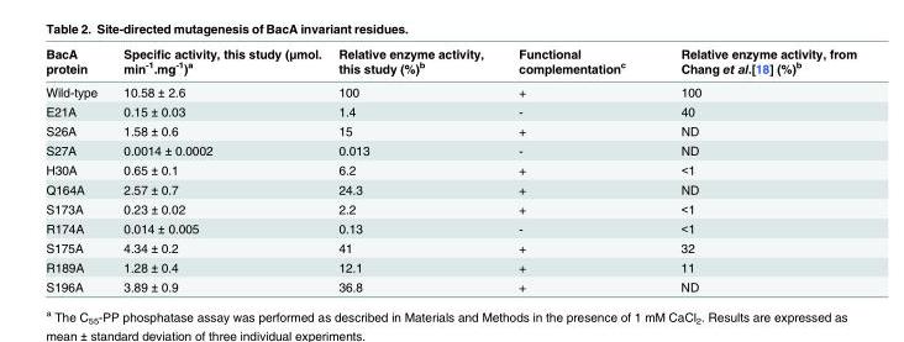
<table><thead><tr><td>BacA protein</td><td>Specific activity, this study (μmol. min<sup>-1</sup>.mg<sup>-1</sup>)<sup>a</sup></td><td>Relative enzyme activity, this study (%)<sup>b</sup></td><td>Functional complementation<sup>c</sup></td><td>Relative enzyme activity, from Chang et al.[18] (%)<sup>b</sup></td></tr></thead><tbody><tr><td>Wild-type</td><td>10.58 ± 2.6</td><td>100</td><td>+</td><td>100</td></tr><tr><td>E21A</td><td>0.15 ± 0.03</td><td>1.4</td><td>-</td><td>40</td></tr><tr><td>S26A</td><td>1.58 ± 0.6</td><td>15</td><td>+</td><td>ND</td></tr><tr><td>S27A</td><td>0.0014 ± 0.0002</td><td>0.013</td><td>-</td><td>ND</td></tr><tr><td>H30A</td><td>0.65 ± 0.1</td><td>6.2</td><td>+</td><td>&lt;1</td></tr><tr><td>Q164A</td><td>2.57 ± 0.7</td><td>24.3</td><td>+</td><td>ND</td></tr><tr><td>S173A</td><td>0.23 ± 0.02</td><td>2.2</td><td>+</td><td>&lt;1</td></tr><tr><td>R174A</td><td>0.014 ± 0.005</td><td>0.13</td><td>-</td><td>&lt;1</td></tr><tr><td>S175A</td><td>4.34 ± 0.2</td><td>41</td><td>+</td><td>32</td></tr><tr><td>R189A</td><td>1.28 ± 0.4</td><td>12.1</td><td>+</td><td>11</td></tr><tr><td>S196A</td><td>3.89 ± 0.9</td><td>36.8</td><td>+</td><td>ND</td></tr></tbody></table>